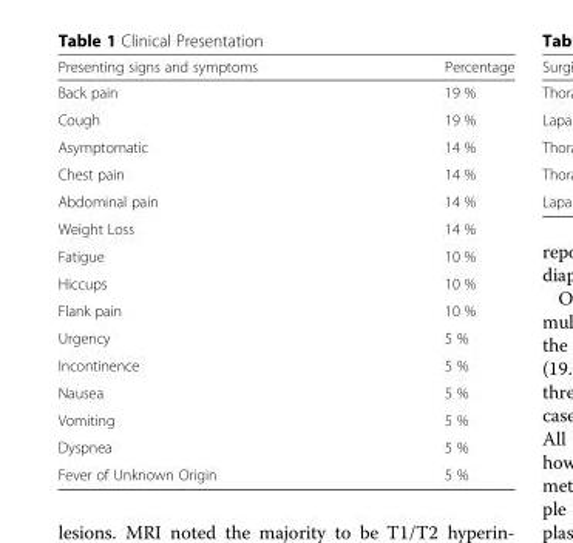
<table><thead><tr><td>Presenting signs and symptoms</td><td>Percentage</td></tr></thead><tbody><tr><td>Back pain</td><td>19 %</td></tr><tr><td>Cough</td><td>19 %</td></tr><tr><td>Asymptomatic</td><td>14 %</td></tr><tr><td>Chest pain</td><td>14 %</td></tr><tr><td>Abdominal pain</td><td>14 %</td></tr><tr><td>Weight Loss</td><td>14 %</td></tr><tr><td>Fatigue</td><td>10 %</td></tr><tr><td>Hiccups</td><td>10 %</td></tr><tr><td>Flank pain</td><td>10 %</td></tr><tr><td>Urgency</td><td>5 %</td></tr><tr><td>Incontinence</td><td>5 %</td></tr><tr><td>Nausea</td><td>5 %</td></tr><tr><td>Vomiting</td><td>5 %</td></tr><tr><td>Dyspnea</td><td>5 %</td></tr><tr><td>Fever of Unknown Origin</td><td>5 %</td></tr></tbody></table>